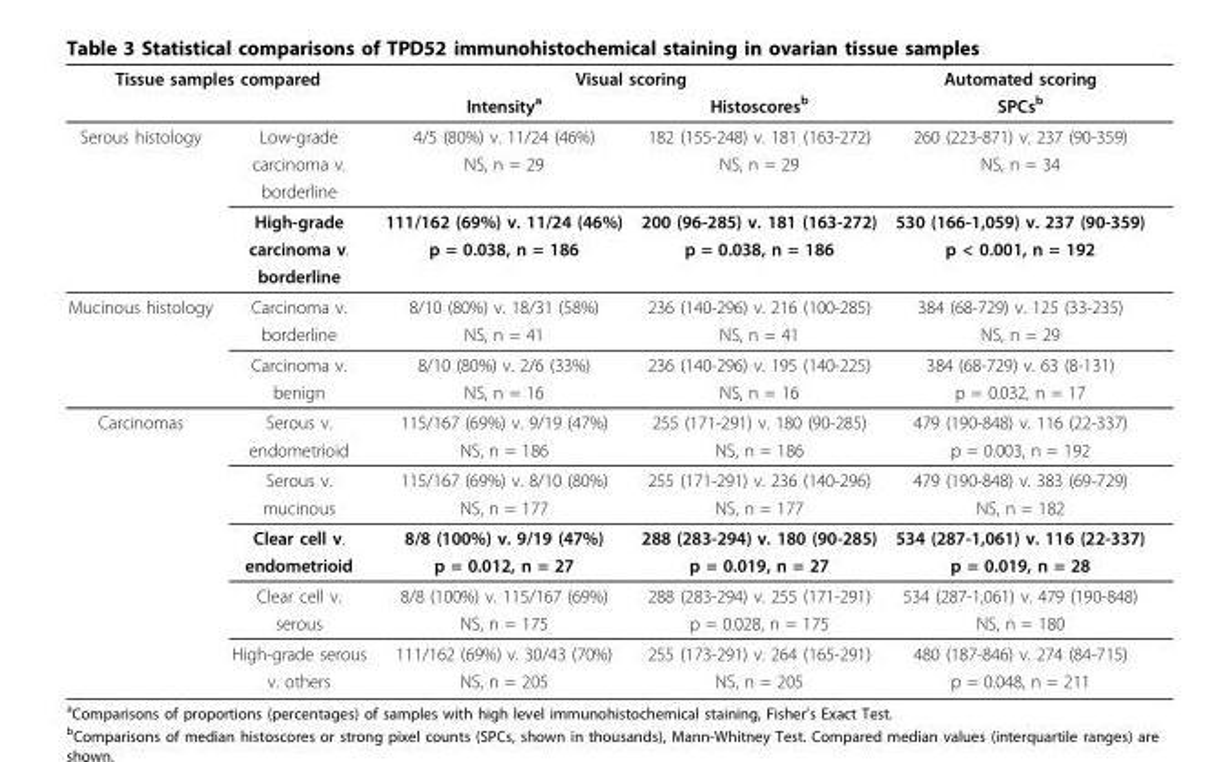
<table><thead><tr><td colspan="2">Tissue samples compared</td><td colspan="2">Visual scoring</td><td rowspan="2">Automated scoring SPCs<sup>b</sup></td></tr><tr><td></td><td></td><td>Intensity<sup>a</sup></td><td>Histoscores<sup>b</sup></td></tr></thead><tbody><tr><td rowspan="6">Serous histology</td><td>Low-grade</td><td>4/5 (80%) v. 11/24 (46%)</td><td>182 (155-248) v. 181 (163-272)</td><td>260 (223-871) v. 237 (90-359)</td></tr><tr><td>carcinoma v.</td><td>NS, n = 29</td><td>NS, n = 29</td><td>NS, n = 34</td></tr><tr><td>borderline</td><td></td><td></td><td></td></tr><tr><td>High-grade</td><td>111/162 (69%) v. 11/24 (46%)</td><td>200 (96-285) v. 181 (163-272)</td><td>530 (166-1,059) v. 237 (90-359)</td></tr><tr><td>carcinoma v.</td><td>p = 0.038, n = 186</td><td>p = 0.038, n = 186</td><td>p &lt; 0.001, n = 192</td></tr><tr><td>borderline</td><td></td><td></td><td></td></tr><tr><td rowspan="4">Mucinous histology</td><td>Carcinoma v.</td><td>8/10 (80%) v. 18/31 (58%)</td><td>236 (140-296) v. 216 (100-285)</td><td>384 (68-729) v. 125 (33-235)</td></tr><tr><td>borderline</td><td>NS, n = 41</td><td>NS, n = 41</td><td>NS, n = 29</td></tr><tr><td>Carcinoma v.</td><td>8/10 (80%) v. 2/6 (33%)</td><td>236 (140-296) v. 195 (140-225)</td><td>384 (68-729) v. 63 (8-131)</td></tr><tr><td>benign</td><td>NS, n = 16</td><td>NS, n = 16</td><td>p = 0.032, n = 17</td></tr><tr><td rowspan="10">Carcinomas</td><td>Serous v.</td><td>115/167 (69%) v. 9/19 (47%)</td><td>255 (171-291) v. 180 (90-285)</td><td>479 (190-848) v. 116 (22-337)</td></tr><tr><td>endometrioid</td><td>NS, n = 186</td><td>NS, n = 186</td><td>p = 0.003, n = 192</td></tr><tr><td>Serous v.</td><td>115/167 (69%) v. 8/10 (80%)</td><td>255 (171-291) v. 236 (140-296)</td><td>479 (190-848) v. 383 (69-729)</td></tr><tr><td>mucinous</td><td>NS, n = 177</td><td>NS, n = 177</td><td>NS, n = 182</td></tr><tr><td>Clear cell v.</td><td>8/8 (100%) v. 9/19 (47%)</td><td>288 (283-294) v. 180 (90-285)</td><td>534 (287-1,061) v. 116 (22-337)</td></tr><tr><td>endometrioid</td><td>p = 0.012, n = 27</td><td>p = 0.019, n = 27</td><td>p = 0.019, n = 28</td></tr><tr><td>Clear cell v.</td><td>8/8 (100%) v. 115/167 (69%)</td><td>288 (283-294) v. 255 (171-291)</td><td>534 (287-1,061) v. 479 (190-848)</td></tr><tr><td>serous</td><td>NS, n = 175</td><td>p = 0.028, n = 175</td><td>NS, n = 180</td></tr><tr><td>High-grade serous</td><td>111/162 (69%) v. 30/43 (70%)</td><td>255 (173-291) v. 264 (165-291)</td><td>480 (187-846) v. 274 (84-715)</td></tr><tr><td>v. others</td><td>NS, n = 205</td><td>NS, n = 205</td><td>p = 0.048, n = 211</td></tr></tbody></table>